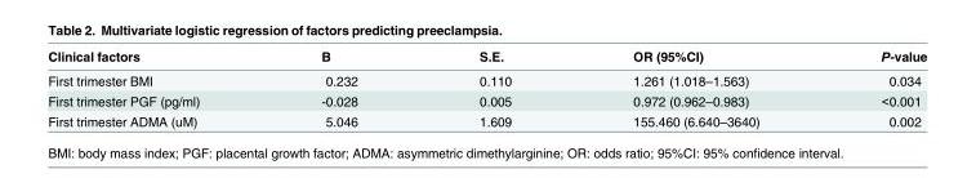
<table><thead><tr><td>Clinical factors</td><td>B</td><td>S.E.</td><td>OR (95%CI)</td><td>P-value</td></tr></thead><tbody><tr><td>First trimester BMI</td><td>0.232</td><td>0.110</td><td>1.261 (1.018–1.563)</td><td>0.034</td></tr><tr><td>First trimester PGF (pg/ml)</td><td>-0.028</td><td>0.005</td><td>0.972 (0.962–0.983)</td><td>&lt;0.001</td></tr><tr><td>First trimester ADMA (uM)</td><td>5.046</td><td>1.609</td><td>155.460 (6.640–3640)</td><td>0.002</td></tr></tbody></table>